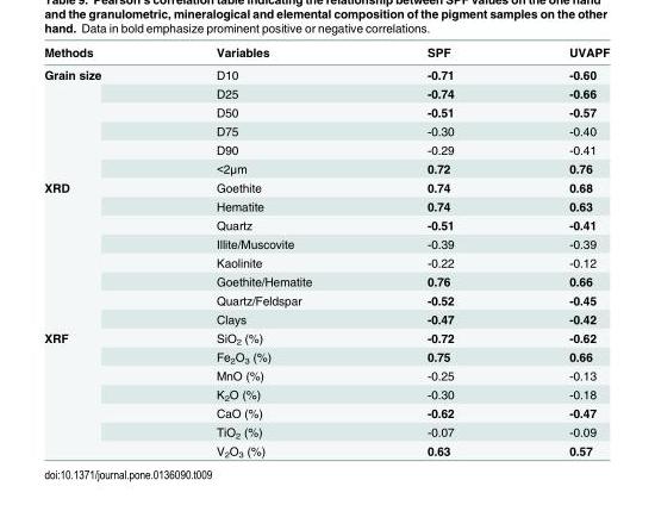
<table><thead><tr><td>Methods</td><td>Variables</td><td>SPF</td><td>UVAPF</td></tr></thead><tbody><tr><td rowspan="6">Grain size</td><td>D10</td><td>-0.71</td><td>-0.60</td></tr><tr><td>D25</td><td>-0.74</td><td>-0.66</td></tr><tr><td>D50</td><td>-0.51</td><td>-0.57</td></tr><tr><td>D75</td><td>-0.30</td><td>-0.40</td></tr><tr><td>D90</td><td>-0.29</td><td>-0.41</td></tr><tr><td>&lt;2μm</td><td>0.72</td><td>0.76</td></tr><tr><td rowspan="8">XRD</td><td>Goethite</td><td>0.74</td><td>0.68</td></tr><tr><td>Hematite</td><td>0.74</td><td>0.63</td></tr><tr><td>Quartz</td><td>-0.51</td><td>-0.41</td></tr><tr><td>Illite/Muscovite</td><td>-0.39</td><td>-0.39</td></tr><tr><td>Kaolinite</td><td>-0.22</td><td>-0.12</td></tr><tr><td>Goethite/Hematite</td><td>0.76</td><td>0.66</td></tr><tr><td>Quartz/Feldspar</td><td>-0.52</td><td>-0.45</td></tr><tr><td>Clays</td><td>-0.47</td><td>-0.42</td></tr><tr><td rowspan="7">XRF</td><td>SiO<sub>2</sub> (%)</td><td>-0.72</td><td>-0.62</td></tr><tr><td>Fe<sub>2</sub>O<sub>3</sub> (%)</td><td>0.75</td><td>0.66</td></tr><tr><td>MnO (%)</td><td>-0.25</td><td>-0.13</td></tr><tr><td>K<sub>2</sub>O (%)</td><td>-0.30</td><td>-0.18</td></tr><tr><td>CaO (%)</td><td>-0.62</td><td>-0.47</td></tr><tr><td>TiO<sub>2</sub> (%)</td><td>-0.07</td><td>-0.09</td></tr><tr><td>V<sub>2</sub>O<sub>3</sub> (%)</td><td>0.63</td><td>0.57</td></tr></tbody></table>